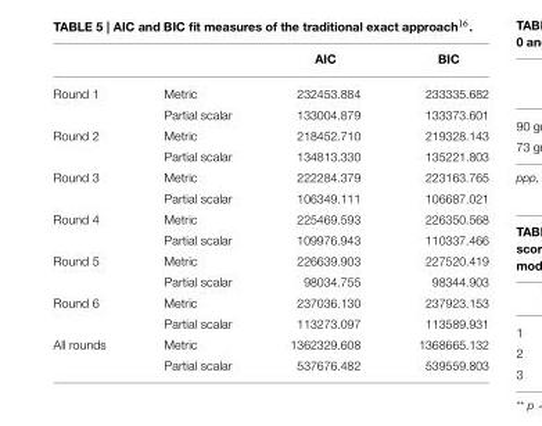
<table><thead><tr><td></td><td></td><td>AIC</td><td>BIC</td></tr></thead><tbody><tr><td rowspan="2">Round 1</td><td>Metric</td><td>232453.884</td><td>233335.682</td></tr><tr><td>Partial scalar</td><td>133004.879</td><td>133373.601</td></tr><tr><td rowspan="2">Round 2</td><td>Metric</td><td>218452.710</td><td>219328.143</td></tr><tr><td>Partial scalar</td><td>134813.330</td><td>135221.803</td></tr><tr><td rowspan="2">Round 3</td><td>Metric</td><td>222284.379</td><td>223163.765</td></tr><tr><td>Partial scalar</td><td>106349.111</td><td>106687.021</td></tr><tr><td rowspan="2">Round 4</td><td>Metric</td><td>225469.593</td><td>226350.568</td></tr><tr><td>Partial scalar</td><td>109976.943</td><td>110337.466</td></tr><tr><td rowspan="2">Round 5</td><td>Metric</td><td>226639.903</td><td>227520.419</td></tr><tr><td>Partial scalar</td><td>98034.755</td><td>98344.903</td></tr><tr><td rowspan="2">Round 6</td><td>Metric</td><td>237036.130</td><td>237923.153</td></tr><tr><td>Partial scalar</td><td>113273.097</td><td>113589.931</td></tr><tr><td rowspan="2">All rounds</td><td>Metric</td><td>1362329.608</td><td>1368665.132</td></tr><tr><td>Partial scalar</td><td>537676.482</td><td>539559.803</td></tr></tbody></table>